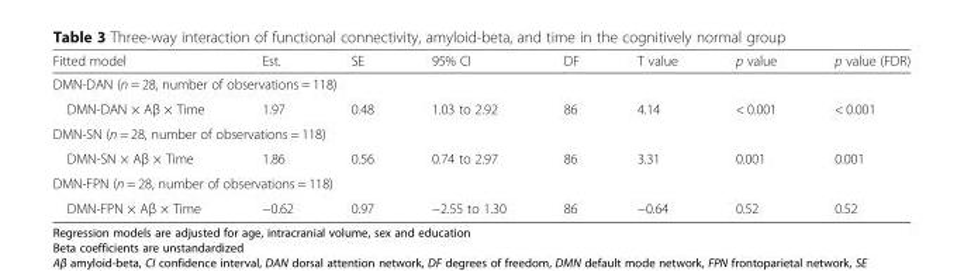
<table><thead><tr><td>Fitted model</td><td>Est.</td><td>SE</td><td>95% CI</td><td>DF</td><td>T value</td><td>p value</td><td>p value (FDR)</td></tr></thead><tbody><tr><td colspan="8">DMN-DAN (n = 28, number of observations = 118)</td></tr><tr><td>DMN-DAN × Aβ × Time</td><td>1.97</td><td>0.48</td><td>1.03 to 2.92</td><td>86</td><td>4.14</td><td>&lt; 0.001</td><td>&lt; 0.001</td></tr><tr><td colspan="8">DMN-SN (n = 28, number of observations = 118)</td></tr><tr><td>DMN-SN × Aβ × Time</td><td>1.86</td><td>0.56</td><td>0.74 to 2.97</td><td>86</td><td>3.31</td><td>0.001</td><td>0.001</td></tr><tr><td colspan="8">DMN-FPN (n = 28, number of observations = 118)</td></tr><tr><td>DMN-FPN × Aβ × Time</td><td>−0.62</td><td>0.97</td><td>−2.55 to 1.30</td><td>86</td><td>−0.64</td><td>0.52</td><td>0.52</td></tr></tbody></table>